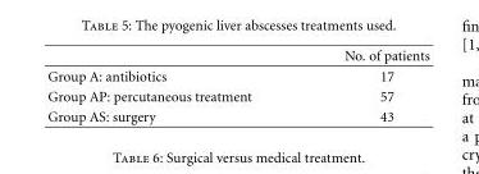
<table><thead><tr><td></td><td>No. of patients</td></tr></thead><tbody><tr><td>Group A: antibiotics</td><td>17</td></tr><tr><td>Group AP: percutaneous treatment</td><td>57</td></tr><tr><td>Group AS: surgery</td><td>43</td></tr></tbody></table>